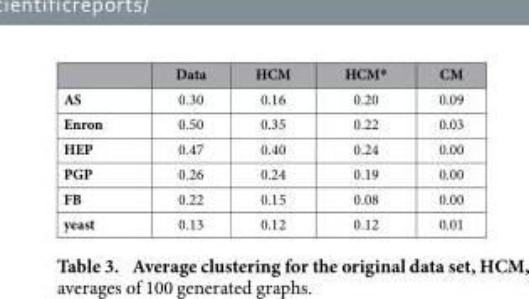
<table><thead><tr><td></td><td>Data</td><td>HCM</td><td>HCM*</td><td>CM</td></tr></thead><tbody><tr><td>AS</td><td>0.30</td><td>0.16</td><td>0.20</td><td>0.09</td></tr><tr><td>Enron</td><td>0.50</td><td>0.35</td><td>0.22</td><td>0.03</td></tr><tr><td>HEP</td><td>0.47</td><td>0.40</td><td>0.24</td><td>0.00</td></tr><tr><td>PGP</td><td>0.26</td><td>0.24</td><td>0.19</td><td>0.00</td></tr><tr><td>FB</td><td>0.22</td><td>0.15</td><td>0.08</td><td>0.00</td></tr><tr><td>yeast</td><td>0.13</td><td>0.12</td><td>0.12</td><td>0.01</td></tr></tbody></table>